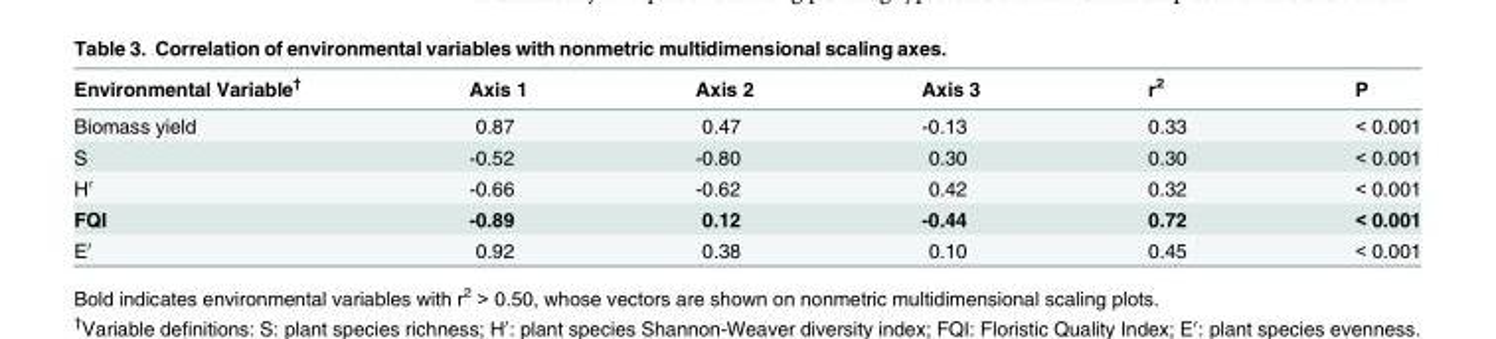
<table><thead><tr><td>Environmental Variable<sup>†</sup></td><td>Axis 1</td><td>Axis 2</td><td>Axis 3</td><td>r<sup>2</sup></td><td>P</td></tr></thead><tbody><tr><td>Biomass yield</td><td>0.87</td><td>0.47</td><td>-0.13</td><td>0.33</td><td>&lt; 0.001</td></tr><tr><td>S</td><td>-0.52</td><td>-0.80</td><td>0.30</td><td>0.30</td><td>&lt; 0.001</td></tr><tr><td>H′</td><td>-0.66</td><td>-0.62</td><td>0.42</td><td>0.32</td><td>&lt; 0.001</td></tr><tr><td>FQI</td><td>-0.89</td><td>0.12</td><td>-0.44</td><td>0.72</td><td>&lt; 0.001</td></tr><tr><td>E′</td><td>0.92</td><td>0.38</td><td>0.10</td><td>0.45</td><td>&lt; 0.001</td></tr></tbody></table>